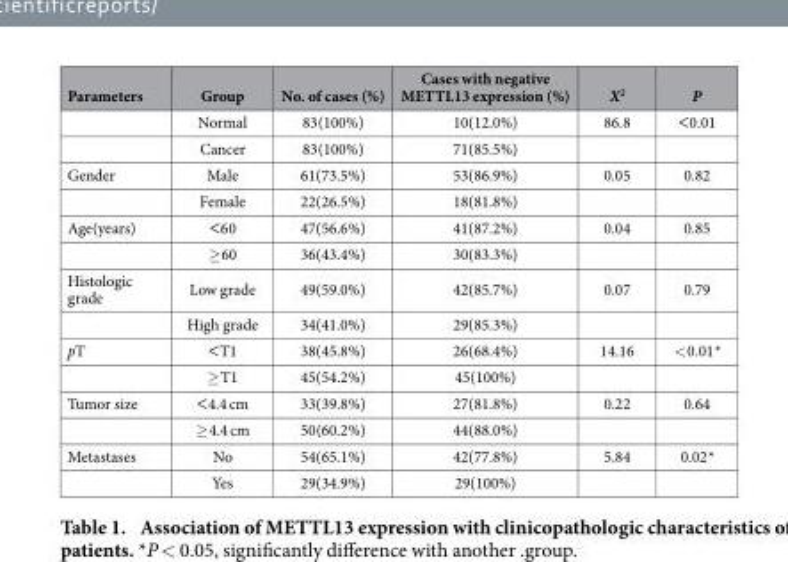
<table><thead><tr><td>Parameters</td><td>Group</td><td>No. of cases (%)</td><td>Cases with negative METTL13 expression (%)</td><td>X2</td><td>P</td></tr></thead><tbody><tr><td></td><td>Normal</td><td>83(100%)</td><td>10(12.0%)</td><td>86.8</td><td>&lt;0.01</td></tr><tr><td></td><td>Cancer</td><td>83(100%)</td><td>71(85.5%)</td><td></td><td></td></tr><tr><td rowspan="2">Gender</td><td>Male</td><td>61(73.5%)</td><td>53(86.9%)</td><td>0.05</td><td>0.82</td></tr><tr><td>Female</td><td>22(26.5%)</td><td>18(81.8%)</td><td></td><td></td></tr><tr><td rowspan="2">Age(years)</td><td>&lt;60</td><td>47(56.6%)</td><td>41(87.2%)</td><td>0.04</td><td>0.85</td></tr><tr><td>≥ 60</td><td>36(43.4%)</td><td>30(83.3%)</td><td></td><td></td></tr><tr><td rowspan="2">Histologic grade</td><td>Low grade</td><td>49(59.0%)</td><td>42(85.7%)</td><td>0.07</td><td>0.79</td></tr><tr><td>High grade</td><td>34(41.0%)</td><td>29(85.3%)</td><td></td><td></td></tr><tr><td rowspan="2">pT</td><td>&lt;T1</td><td>38(45.8%)</td><td>26(68.4%)</td><td>14.16</td><td>&lt; 0.01*</td></tr><tr><td>≥ T1</td><td>45(54.2%)</td><td>45(100%)</td><td></td><td></td></tr><tr><td rowspan="2">Tumor size</td><td>&lt;4.4 cm</td><td>33(39.8%)</td><td>27(81.8%)</td><td>0.22</td><td>0.64</td></tr><tr><td>≥ 4.4 cm</td><td>50(60.2%)</td><td>44(88.0%)</td><td></td><td></td></tr><tr><td rowspan="2">Metastases</td><td>No</td><td>54(65.1%)</td><td>42(77.8%)</td><td>5.84</td><td>0.02*</td></tr><tr><td>Yes</td><td>29(34.9%)</td><td>29(100%)</td><td></td><td></td></tr></tbody></table>